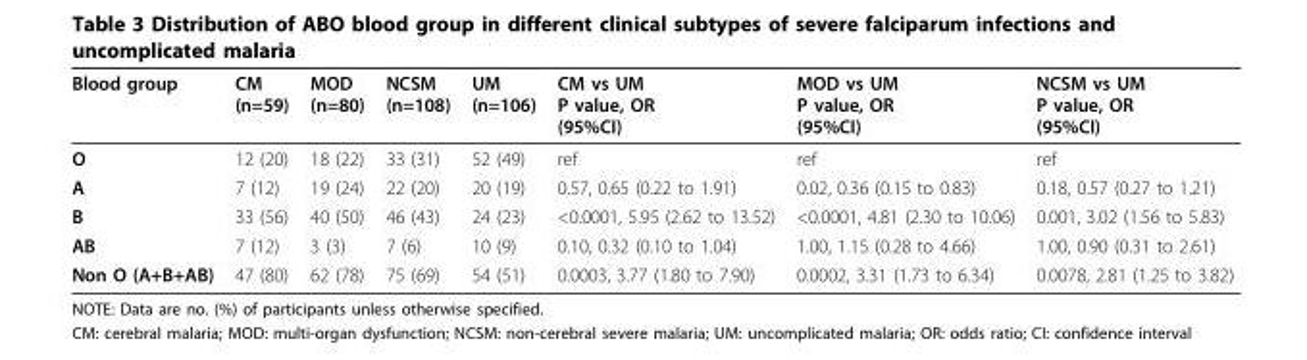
<table><thead><tr><td>Blood group</td><td>CM (n=59)</td><td>MOD (n=80)</td><td>NCSM (n=108)</td><td>UM (n=106)</td><td>CM vs UM P value, OR (95%CI)</td><td>MOD vs UM P value, OR (95%CI)</td><td>NCSM vs UM P value, OR (95%CI)</td></tr></thead><tbody><tr><td>O</td><td>12 (20)</td><td>18 (22)</td><td>33 (31)</td><td>52 (49)</td><td>ref</td><td>ref</td><td>ref</td></tr><tr><td>A</td><td>7 (12)</td><td>19 (24)</td><td>22 (20)</td><td>20 (19)</td><td>0.57, 0.65 (0.22 to 1.91)</td><td>0.02, 0.36 (0.15 to 0.83)</td><td>0.18, 0.57 (0.27 to 1.21)</td></tr><tr><td>B</td><td>33 (56)</td><td>40 (50)</td><td>46 (43)</td><td>24 (23)</td><td>&lt;0.0001, 5.95 (2.62 to 13.52)</td><td>&lt;0.0001, 4.81 (2.30 to 10.06)</td><td>0.001, 3.02 (1.56 to 5.83)</td></tr><tr><td>AB</td><td>7 (12)</td><td>3 (3)</td><td>7 (6)</td><td>10 (9)</td><td>0.10, 0.32 (0.10 to 1.04)</td><td>1.00, 1.15 (0.28 to 4.66)</td><td>1.00, 0.90 (0.31 to 2.61)</td></tr><tr><td>Non O (A+B+AB)</td><td>47 (80)</td><td>62 (78)</td><td>75 (69)</td><td>54 (51)</td><td>0.0003, 3.77 (1.80 to 7.90)</td><td>0.0002, 3.31 (1.73 to 6.34)</td><td>0.0078, 2.81 (1.25 to 3.82)</td></tr></tbody></table>